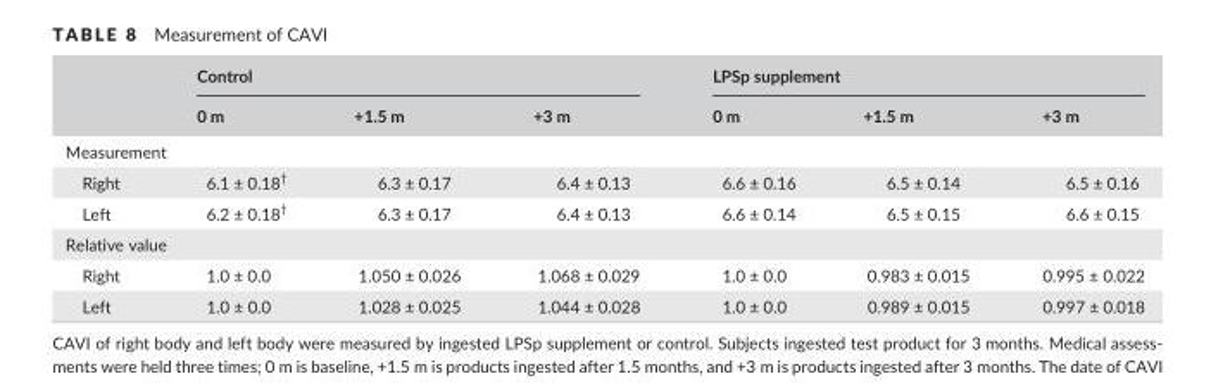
<table><thead><tr><td rowspan="2"></td><td colspan="3">Control</td><td colspan="3">LPSp supplement</td></tr><tr><td>0 m</td><td>+1.5 m</td><td>+3 m</td><td>0 m</td><td>+1.5 m</td><td>+3 m</td></tr></thead><tbody><tr><td colspan="7">Measurement</td></tr><tr><td>Right</td><td>6.1 ± 0.18†</td><td>6.3 ± 0.17</td><td>6.4 ± 0.13</td><td>6.6 ± 0.16</td><td>6.5 ± 0.14</td><td>6.5 ± 0.16</td></tr><tr><td>Left</td><td>6.2 ± 0.18†</td><td>6.3 ± 0.17</td><td>6.4 ± 0.13</td><td>6.6 ± 0.14</td><td>6.5 ± 0.15</td><td>6.6 ± 0.15</td></tr><tr><td colspan="7">Relative value</td></tr><tr><td>Right</td><td>1.0 ± 0.0</td><td>1.050 ± 0.026</td><td>1.068 ± 0.029</td><td>1.0 ± 0.0</td><td>0.983 ± 0.015</td><td>0.995 ± 0.022</td></tr><tr><td>Left</td><td>1.0 ± 0.0</td><td>1.028 ± 0.025</td><td>1.044 ± 0.028</td><td>1.0 ± 0.0</td><td>0.989 ± 0.015</td><td>0.997 ± 0.018</td></tr></tbody></table>